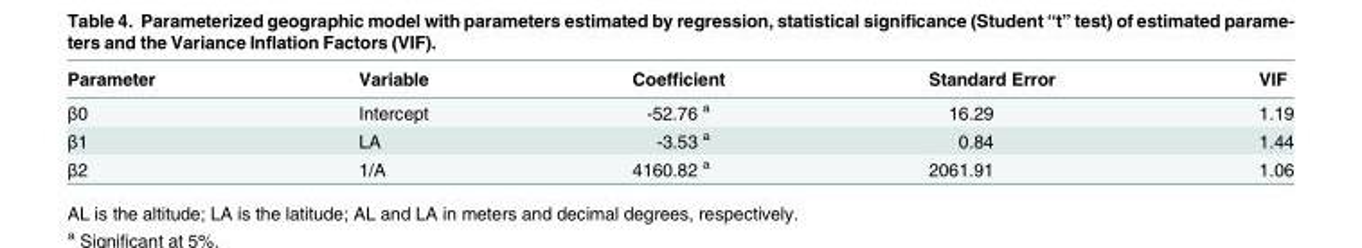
<table><thead><tr><td>Parameter</td><td>Variable</td><td>Coefficient</td><td>Standard Error</td><td>VIF</td></tr></thead><tbody><tr><td>β0</td><td>Intercept</td><td>-52.76 <sup>a</sup></td><td>16.29</td><td>1.19</td></tr><tr><td>β1</td><td>LA</td><td>-3.53 <sup>a</sup></td><td>0.84</td><td>1.44</td></tr><tr><td>β2</td><td>1/A</td><td>4160.82 <sup>a</sup></td><td>2061.91</td><td>1.06</td></tr></tbody></table>